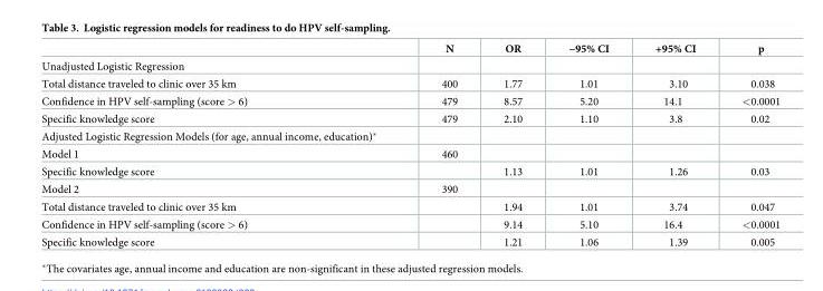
<table><thead><tr><td></td><td>N</td><td>OR</td><td>−95% CI</td><td>+95% CI</td><td>p</td></tr></thead><tbody><tr><td colspan="6">Unadjusted Logistic Regression</td></tr><tr><td>Total distance traveled to clinic over 35 km</td><td>400</td><td>1.77</td><td>1.01</td><td>3.10</td><td>0.038</td></tr><tr><td>Confidence in HPV self-sampling (score &gt; 6)</td><td>479</td><td>8.57</td><td>5.20</td><td>14.1</td><td>&lt;0.0001</td></tr><tr><td>Specific knowledge score</td><td>479</td><td>2.10</td><td>1.10</td><td>3.8</td><td>0.02</td></tr><tr><td colspan="6">Adjusted Logistic Regression Models (for age, annual income, education)*</td></tr><tr><td>Model 1</td><td>460</td><td></td><td></td><td></td><td></td></tr><tr><td>Specific knowledge score</td><td></td><td>1.13</td><td>1.01</td><td>1.26</td><td>0.03</td></tr><tr><td>Model 2</td><td>390</td><td></td><td></td><td></td><td></td></tr><tr><td>Total distance traveled to clinic over 35 km</td><td></td><td>1.94</td><td>1.01</td><td>3.74</td><td>0.047</td></tr><tr><td>Confidence in HPV self-sampling (score &gt; 6)</td><td></td><td>9.14</td><td>5.10</td><td>16.4</td><td>&lt;0.0001</td></tr><tr><td>Specific knowledge score</td><td></td><td>1.21</td><td>1.06</td><td>1.39</td><td>0.005</td></tr></tbody></table>